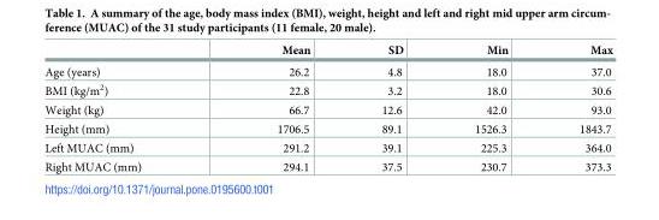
<table><thead><tr><td></td><td>Mean</td><td>SD</td><td>Min</td><td>Max</td></tr></thead><tbody><tr><td>Age (years)</td><td>26.2</td><td>4.8</td><td>18.0</td><td>37.0</td></tr><tr><td>BMI (kg/m<sup>2</sup>)</td><td>22.8</td><td>3.2</td><td>18.0</td><td>30.6</td></tr><tr><td>Weight (kg)</td><td>66.7</td><td>12.6</td><td>42.0</td><td>93.0</td></tr><tr><td>Height (mm)</td><td>1706.5</td><td>89.1</td><td>1526.3</td><td>1843.7</td></tr><tr><td>Left MUAC (mm)</td><td>291.2</td><td>39.1</td><td>225.3</td><td>364.0</td></tr><tr><td>Right MUAC (mm)</td><td>294.1</td><td>37.5</td><td>230.7</td><td>373.3</td></tr></tbody></table>